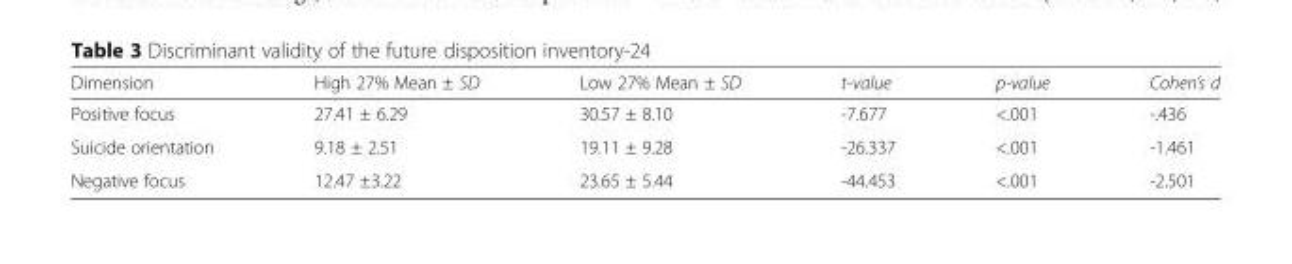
<table><thead><tr><td>Dimension</td><td>High 27% Mean ± SD</td><td>Low 27% Mean ± SD</td><td>t-value</td><td>p-value</td><td>Cohen’s d</td></tr></thead><tbody><tr><td>Positive focus</td><td>27.41 ± 6.29</td><td>30.57 ± 8.10</td><td>-7.677</td><td>&lt;.001</td><td>-.436</td></tr><tr><td>Suicide orientation</td><td>9.18 ± 2.51</td><td>19.11 ± 9.28</td><td>-26.337</td><td>&lt;.001</td><td>-1.461</td></tr><tr><td>Negative focus</td><td>12.47 ±3.22</td><td>23.65 ± 5.44</td><td>-44.453</td><td>&lt;.001</td><td>-2.501</td></tr></tbody></table>